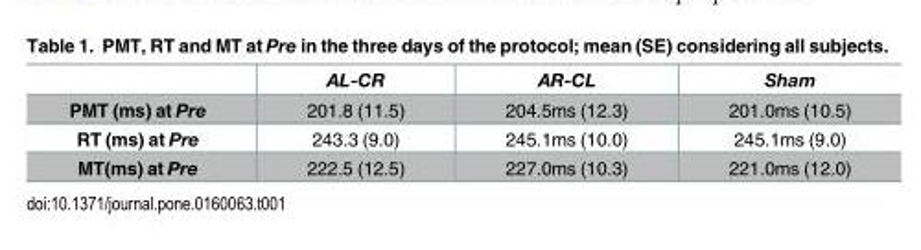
<table><thead><tr><td></td><td>AL-CR</td><td>AR-CL</td><td>Sham</td></tr></thead><tbody><tr><td>PMT (ms) at Pre</td><td>201.8 (11.5)</td><td>204.5ms (12.3)</td><td>201.0ms (10.5)</td></tr><tr><td>RT (ms) at Pre</td><td>243.3 (9.0)</td><td>245.1ms (10.0)</td><td>245.1ms (9.0)</td></tr><tr><td>MT(ms) at Pre</td><td>222.5 (12.5)</td><td>227.0ms (10.3)</td><td>221.0ms (12.0)</td></tr></tbody></table>